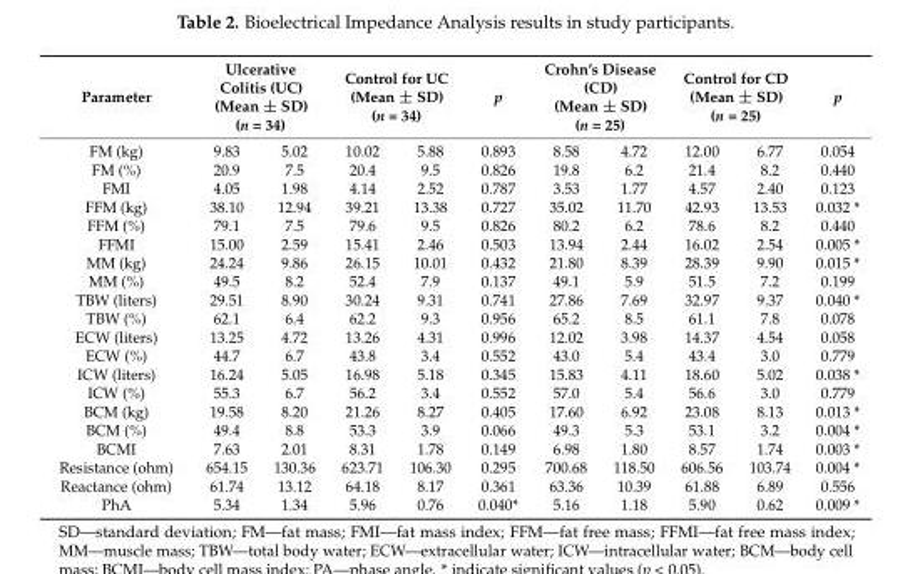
<table><thead><tr><td rowspan="2">Parameter FM (kg)</td><td colspan="2">Ulcerative Colitis (UC) (Mean ± SD) (n = 34)</td><td colspan="2">Control for UC (Mean ± SD) (n = 34)</td><td rowspan="2">p 0.893</td><td colspan="2">Crohn’s Disease (CD) (Mean ± SD) (n = 25)</td><td colspan="2">Control for CD (Mean ± SD) (n = 25)</td><td rowspan="2">p 0.054</td></tr><tr><td>9.83</td><td>5.02</td><td>10.02</td><td>5.88</td><td>8.58</td><td>4.72</td><td>12.00</td><td>6.77</td></tr></thead><tbody><tr><td>FM (%)</td><td>20.9</td><td>7.5</td><td>20.4</td><td>9.5</td><td>0.826</td><td>19.8</td><td>6.2</td><td>21.4</td><td>8.2</td><td>0.440</td></tr><tr><td>FMI</td><td>4.05</td><td>1.98</td><td>4.14</td><td>2.52</td><td>0.787</td><td>3.53</td><td>1.77</td><td>4.57</td><td>2.40</td><td>0.123</td></tr><tr><td>FFM (kg)</td><td>38.10</td><td>12.94</td><td>39.21</td><td>13.38</td><td>0.727</td><td>35.02</td><td>11.70</td><td>42.93</td><td>13.53</td><td>0.032 *</td></tr><tr><td>FFM (%)</td><td>79.1</td><td>7.5</td><td>79.6</td><td>9.5</td><td>0.826</td><td>80.2</td><td>6.2</td><td>78.6</td><td>8.2</td><td>0.440</td></tr><tr><td>FFMI</td><td>15.00</td><td>2.59</td><td>15.41</td><td>2.46</td><td>0.503</td><td>13.94</td><td>2.44</td><td>16.02</td><td>2.54</td><td>0.005 *</td></tr><tr><td>MM (kg)</td><td>24.24</td><td>9.86</td><td>26.15</td><td>10.01</td><td>0.432</td><td>21.80</td><td>8.39</td><td>28.39</td><td>9.90</td><td>0.015 *</td></tr><tr><td>MM (%)</td><td>49.5</td><td>8.2</td><td>52.4</td><td>7.9</td><td>0.137</td><td>49.1</td><td>5.9</td><td>51.5</td><td>7.2</td><td>0.199</td></tr><tr><td>TBW (liters)</td><td>29.51</td><td>8.90</td><td>30.24</td><td>9.31</td><td>0.741</td><td>27.86</td><td>7.69</td><td>32.97</td><td>9.37</td><td>0.040 *</td></tr><tr><td>TBW (%)</td><td>62.1</td><td>6.4</td><td>62.2</td><td>9.3</td><td>0.956</td><td>65.2</td><td>8.5</td><td>61.1</td><td>7.8</td><td>0.078</td></tr><tr><td>ECW (liters)</td><td>13.25</td><td>4.72</td><td>13.26</td><td>4.31</td><td>0.996</td><td>12.02</td><td>3.98</td><td>14.37</td><td>4.54</td><td>0.058</td></tr><tr><td>ECW (%)</td><td>44.7</td><td>6.7</td><td>43.8</td><td>3.4</td><td>0.552</td><td>43.0</td><td>5.4</td><td>43.4</td><td>3.0</td><td>0.779</td></tr><tr><td>ICW (liters)</td><td>16.24</td><td>5.05</td><td>16.98</td><td>5.18</td><td>0.345</td><td>15.83</td><td>4.11</td><td>18.60</td><td>5.02</td><td>0.038 *</td></tr><tr><td>ICW (%)</td><td>55.3</td><td>6.7</td><td>56.2</td><td>3.4</td><td>0.552</td><td>57.0</td><td>5.4</td><td>56.6</td><td>3.0</td><td>0.779</td></tr><tr><td>BCM (kg)</td><td>19.58</td><td>8.20</td><td>21.26</td><td>8.27</td><td>0.405</td><td>17.60</td><td>6.92</td><td>23.08</td><td>8.13</td><td>0.013 *</td></tr><tr><td>BCM (%)</td><td>49.4</td><td>8.8</td><td>53.3</td><td>3.9</td><td>0.066</td><td>49.3</td><td>5.3</td><td>53.1</td><td>3.2</td><td>0.004 *</td></tr><tr><td>BCMI</td><td>7.63</td><td>2.01</td><td>8.31</td><td>1.78</td><td>0.149</td><td>6.98</td><td>1.80</td><td>8.57</td><td>1.74</td><td>0.003 *</td></tr><tr><td>Resistance (ohm)</td><td>654.15</td><td>130.36</td><td>623.71</td><td>106.30</td><td>0.295</td><td>700.68</td><td>118.50</td><td>606.56</td><td>103.74</td><td>0.004 *</td></tr><tr><td>Reactance (ohm)</td><td>61.74</td><td>13.12</td><td>64.18</td><td>8.17</td><td>0.361</td><td>63.36</td><td>10.39</td><td>61.88</td><td>6.89</td><td>0.556</td></tr><tr><td>PhA</td><td>5.34</td><td>1.34</td><td>5.96</td><td>0.76</td><td>0.040*</td><td>5.16</td><td>1.18</td><td>5.90</td><td>0.62</td><td>0.009 *</td></tr></tbody></table>